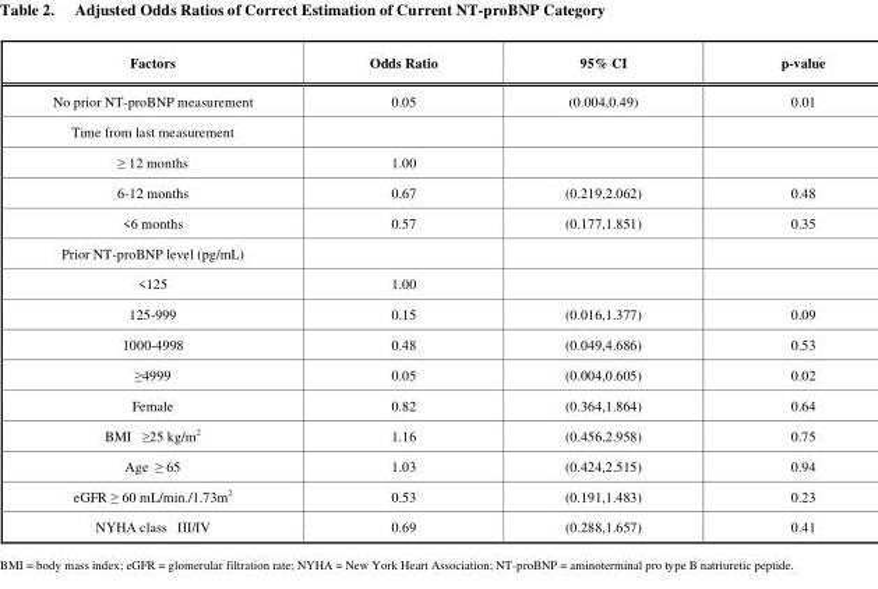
<table><tbody><tr><td>Factors</td><td>Odds Ratio</td><td>95% CI</td><td>p-value</td></tr><tr><td>No prior NT-proBNP measurement</td><td>0.05</td><td>(0.004,0.49)</td><td>0.01</td></tr><tr><td colspan="4">Time from last measurement</td></tr><tr><td>≥ 12 months</td><td>1.00</td><td></td><td></td></tr><tr><td>6-12 months</td><td>0.67</td><td>(0.219,2.062)</td><td>0.48</td></tr><tr><td>&lt;6 months</td><td>0.57</td><td>(0.177,1.851)</td><td>0.35</td></tr><tr><td colspan="4">Prior NT-proBNP level (pg/mL)</td></tr><tr><td>&lt;125</td><td>1.00</td><td></td><td></td></tr><tr><td>125-999</td><td>0.15</td><td>(0.016,1.377)</td><td>0.09</td></tr><tr><td>1000-4998</td><td>0.48</td><td>(0.049,4.686)</td><td>0.53</td></tr><tr><td>≥4999</td><td>0.05</td><td>(0.004,0.605)</td><td>0.02</td></tr><tr><td>Female</td><td>0.82</td><td>(0.364,1.864)</td><td>0.64</td></tr><tr><td>BMI ≥25 kg/m<sup>2</sup></td><td>1.16</td><td>(0.456,2.958)</td><td>0.75</td></tr><tr><td>Age ≥ 65</td><td>1.03</td><td>(0.424,2.515)</td><td>0.94</td></tr><tr><td>eGFR ≥ 60 mL/min./1.73m<sup>2</sup></td><td>0.53</td><td>(0.191,1.483)</td><td>0.23</td></tr><tr><td>NYHA class III/IV</td><td>0.69</td><td>(0.288,1.657)</td><td>0.41</td></tr></tbody></table>